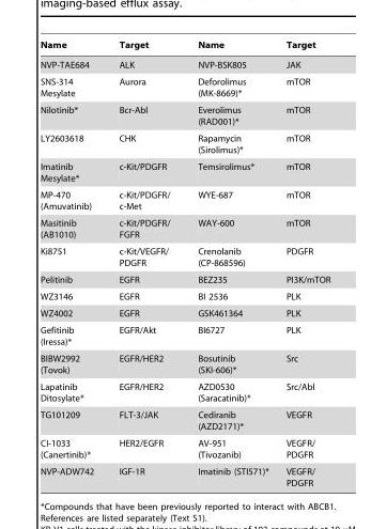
<table><thead><tr><td>Name</td><td>Target</td><td>Name</td><td>Target</td></tr></thead><tbody><tr><td>NVP-TAE684</td><td>ALK</td><td>NVP-BSK805</td><td>JAK</td></tr><tr><td>SNS-314 Mesylate</td><td>Aurora</td><td>Deforolimus (MK-8669)*</td><td>mTOR</td></tr><tr><td>Nilotinib*</td><td>Bcr-Abl</td><td>Everolimus (RAD001)*</td><td>mTOR</td></tr><tr><td>LY2603618</td><td>CHK</td><td>Rapamycin (Sirolimus)*</td><td>mTOR</td></tr><tr><td>Imatinib Mesylate*</td><td>c-Kit/PDGFR</td><td>Temsirolimus*</td><td>mTOR</td></tr><tr><td>MP-470 (Amuvatinib)</td><td>c-Kit/PDGFR/ c-Met</td><td>WYE-687</td><td>mTOR</td></tr><tr><td>Masitinib (AB1010)</td><td>c-Kit/PDGFR/ FGFR</td><td>WAY-600</td><td>mTOR</td></tr><tr><td>Ki8751</td><td>c-Kit/VEGFR/ PDGFR</td><td>Crenolanib (CP-868596)</td><td>PDGFR</td></tr><tr><td>Pelitinib</td><td>EGFR</td><td>BEZ235</td><td>PI3K/mTOR</td></tr><tr><td>WZ3146</td><td>EGFR</td><td>BI 2536</td><td>PLK</td></tr><tr><td>WZ4002</td><td>EGFR</td><td>GSK461364</td><td>PLK</td></tr><tr><td>Gefitinib (Iressa)*</td><td>EGFR/Akt</td><td>BI6727</td><td>PLK</td></tr><tr><td>BIBW2992 (Tovok)</td><td>EGFR/HER2</td><td>Bosutinib (SKI-606)*</td><td>Src</td></tr><tr><td>Lapatinib Ditosylate*</td><td>EGFR/HER2</td><td>AZD0530 (Saracatinib)*</td><td>Src/Abl</td></tr><tr><td>TG101209</td><td>FLT-3/JAK</td><td>Cediranib (AZD2171)*</td><td>VEGFR</td></tr><tr><td>CI-1033 (Canertinib)*</td><td>HER2/EGFR</td><td>AV-951 (Tivozanib)</td><td>VEGFR/ PDGFR</td></tr><tr><td>NVP-ADW742</td><td>IGF-1R</td><td>Imatinib (STI571)*</td><td>VEGFR/ PDGFR</td></tr></tbody></table>